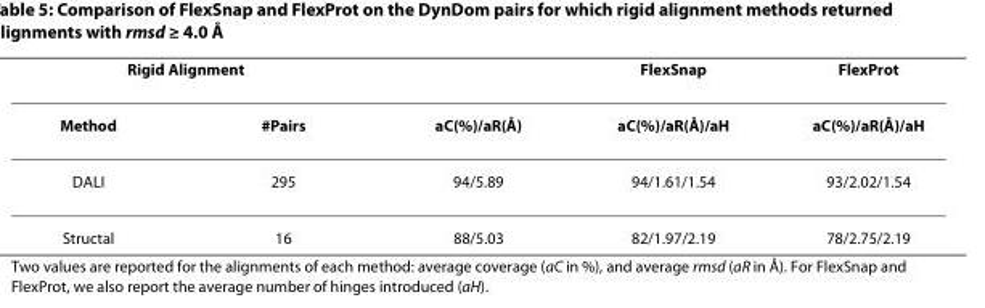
<table><thead><tr><td colspan="2">Rigid Alignment</td><td rowspan="2">aC(%)/aR(Å)</td><td rowspan="2">FlexSnap aC(%)/aR(Å)/aH</td><td rowspan="2">FlexProt aC(%)/aR(Å)/aH</td></tr><tr><td>Method</td><td>#Pairs</td></tr></thead><tbody><tr><td>DALI</td><td>295</td><td>94/5.89</td><td>94/1.61/1.54</td><td>93/2.02/1.54</td></tr><tr><td>Structal</td><td>16</td><td>88/5.03</td><td>82/1.97/2.19</td><td>78/2.75/2.19</td></tr></tbody></table>